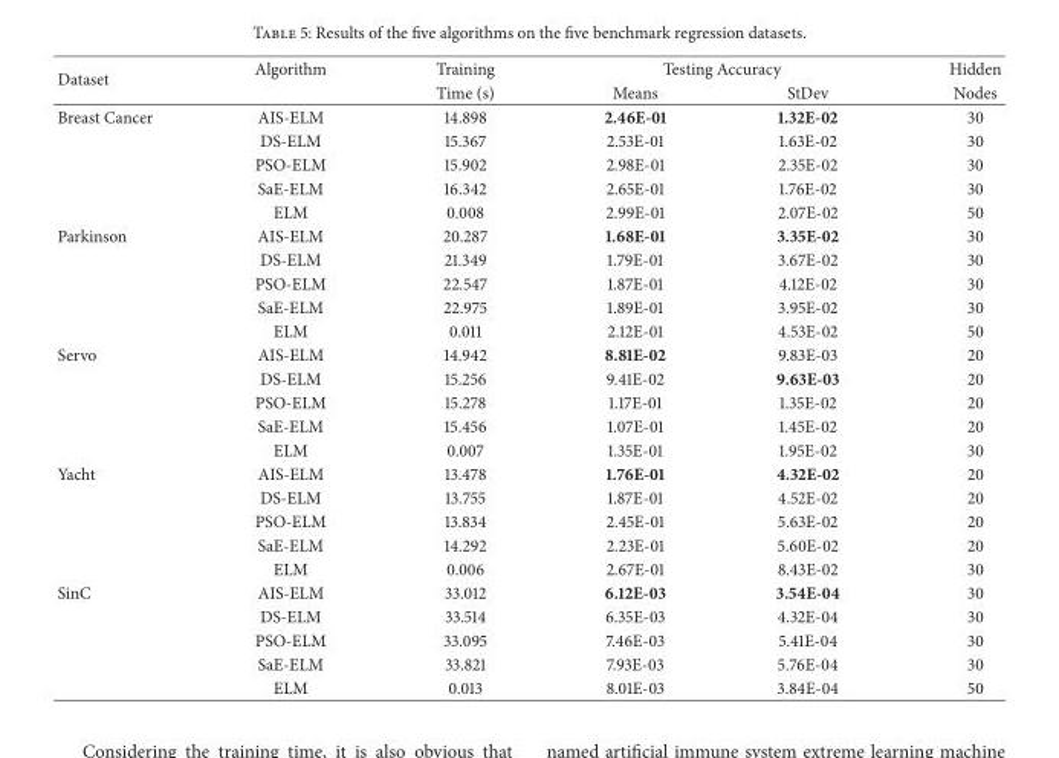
<table><thead><tr><td rowspan="2">Dataset</td><td rowspan="2">Algorithm</td><td rowspan="2">Training Time (s)</td><td colspan="2">Testing Accuracy</td><td rowspan="2">Hidden Nodes</td></tr><tr><td>Means</td><td>StDev</td></tr></thead><tbody><tr><td rowspan="5">Breast Cancer</td><td>AIS-ELM</td><td>14.898</td><td>2.46E-01</td><td>1.32E-02</td><td>30</td></tr><tr><td>DS-ELM</td><td>15.367</td><td>2.53E-01</td><td>1.63E-02</td><td>30</td></tr><tr><td>PSO-ELM</td><td>15.902</td><td>2.98E-01</td><td>2.35E-02</td><td>30</td></tr><tr><td>SaE-ELM</td><td>16.342</td><td>2.65E-01</td><td>1.76E-02</td><td>30</td></tr><tr><td>ELM</td><td>0.008</td><td>2.99E-01</td><td>2.07E-02</td><td>50</td></tr><tr><td rowspan="5">Parkinson</td><td>AIS-ELM</td><td>20.287</td><td>1.68E-01</td><td>3.35E-02</td><td>30</td></tr><tr><td>DS-ELM</td><td>21.349</td><td>1.79E-01</td><td>3.67E-02</td><td>30</td></tr><tr><td>PSO-ELM</td><td>22.547</td><td>1.87E-01</td><td>4.12E-02</td><td>30</td></tr><tr><td>SaE-ELM</td><td>22.975</td><td>1.89E-01</td><td>3.95E-02</td><td>30</td></tr><tr><td>ELM</td><td>0.011</td><td>2.12E-01</td><td>4.53E-02</td><td>50</td></tr><tr><td rowspan="5">Servo</td><td>AIS-ELM</td><td>14.942</td><td>8.81E-02</td><td>9.83E-03</td><td>20</td></tr><tr><td>DS-ELM</td><td>15.256</td><td>9.41E-02</td><td>9.63E-03</td><td>20</td></tr><tr><td>PSO-ELM</td><td>15.278</td><td>1.17E-01</td><td>1.35E-02</td><td>20</td></tr><tr><td>SaE-ELM</td><td>15.456</td><td>1.07E-01</td><td>1.45E-02</td><td>20</td></tr><tr><td>ELM</td><td>0.007</td><td>1.35E-01</td><td>1.95E-02</td><td>30</td></tr><tr><td rowspan="5">Yacht</td><td>AIS-ELM</td><td>13.478</td><td>1.76E-01</td><td>4.32E-02</td><td>20</td></tr><tr><td>DS-ELM</td><td>13.755</td><td>1.87E-01</td><td>4.52E-02</td><td>20</td></tr><tr><td>PSO-ELM</td><td>13.834</td><td>2.45E-01</td><td>5.63E-02</td><td>20</td></tr><tr><td>SaE-ELM</td><td>14.292</td><td>2.23E-01</td><td>5.60E-02</td><td>20</td></tr><tr><td>ELM</td><td>0.006</td><td>2.67E-01</td><td>8.43E-02</td><td>30</td></tr><tr><td rowspan="5">SinC</td><td>AIS-ELM</td><td>33.012</td><td>6.12E-03</td><td>3.54E-04</td><td>30</td></tr><tr><td>DS-ELM</td><td>33.514</td><td>6.35E-03</td><td>4.32E-04</td><td>30</td></tr><tr><td>PSO-ELM</td><td>33.095</td><td>7.46E-03</td><td>5.41E-04</td><td>30</td></tr><tr><td>SaE-ELM</td><td>33.821</td><td>7.93E-03</td><td>5.76E-04</td><td>30</td></tr><tr><td>ELM</td><td>0.013</td><td>8.01E-03</td><td>3.84E-04</td><td>50</td></tr></tbody></table>